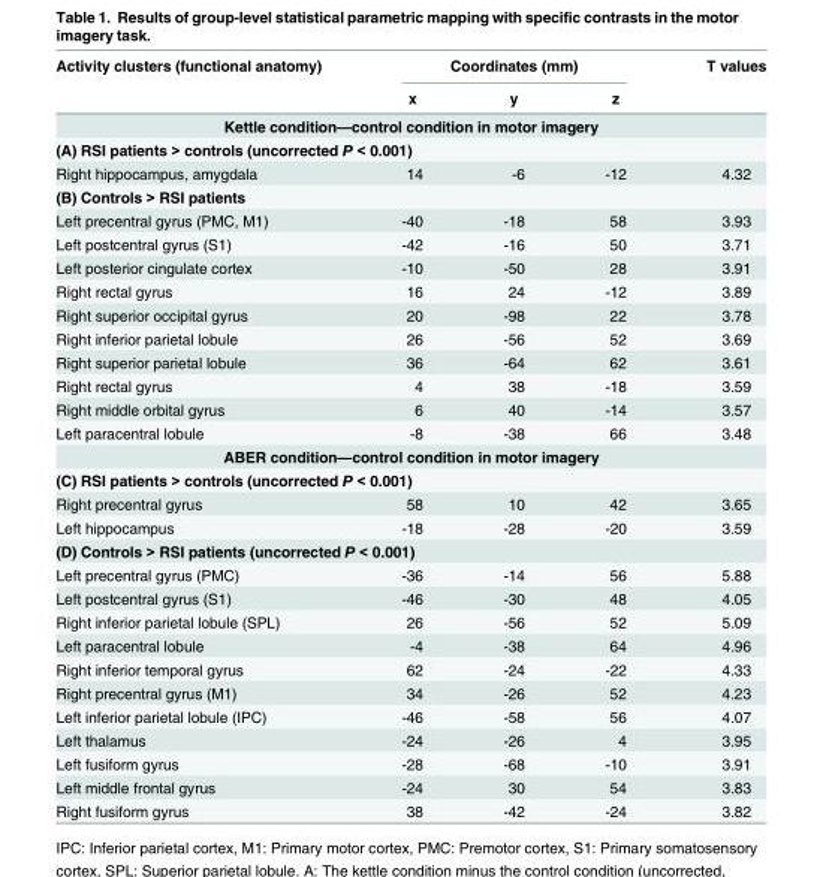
<table><thead><tr><td rowspan="2">Activity clusters (functional anatomy)</td><td colspan="3">Coordinates (mm)</td><td rowspan="2">T values</td></tr><tr><td>x</td><td>y</td><td>z</td></tr></thead><tbody><tr><td colspan="5">Kettle condition—control condition in motor imagery</td></tr><tr><td colspan="5">(A) RSI patients &gt; controls (uncorrected P &lt; 0.001)</td></tr><tr><td>Right hippocampus, amygdala</td><td>14</td><td>-6</td><td>-12</td><td>4.32</td></tr><tr><td colspan="5">(B) Controls &gt; RSI patients</td></tr><tr><td>Left precentral gyrus (PMC, M1)</td><td>-40</td><td>-18</td><td>58</td><td>3.93</td></tr><tr><td>Left postcentral gyrus (S1)</td><td>-42</td><td>-16</td><td>50</td><td>3.71</td></tr><tr><td>Left posterior cingulate cortex</td><td>-10</td><td>-50</td><td>28</td><td>3.91</td></tr><tr><td>Right rectal gyrus</td><td>16</td><td>24</td><td>-12</td><td>3.89</td></tr><tr><td>Right superior occipital gyrus</td><td>20</td><td>-98</td><td>22</td><td>3.78</td></tr><tr><td>Right inferior parietal lobule</td><td>26</td><td>-56</td><td>52</td><td>3.69</td></tr><tr><td>Right superior parietal lobule</td><td>36</td><td>-64</td><td>62</td><td>3.61</td></tr><tr><td>Right rectal gyrus</td><td>4</td><td>38</td><td>-18</td><td>3.59</td></tr><tr><td>Right middle orbital gyrus</td><td>6</td><td>40</td><td>-14</td><td>3.57</td></tr><tr><td>Left paracentral lobule</td><td>-8</td><td>-38</td><td>66</td><td>3.48</td></tr><tr><td colspan="5">ABER condition—control condition in motor imagery</td></tr><tr><td colspan="5">(C) RSI patients &gt; controls (uncorrected P &lt; 0.001)</td></tr><tr><td>Right precentral gyrus</td><td>58</td><td>10</td><td>42</td><td>3.65</td></tr><tr><td>Left hippocampus</td><td>-18</td><td>-28</td><td>-20</td><td>3.59</td></tr><tr><td colspan="5">(D) Controls &gt; RSI patients (uncorrected P &lt; 0.001)</td></tr><tr><td>Left precentral gyrus (PMC)</td><td>-36</td><td>-14</td><td>56</td><td>5.88</td></tr><tr><td>Left postcentral gyrus (S1)</td><td>-46</td><td>-30</td><td>48</td><td>4.05</td></tr><tr><td>Right inferior parietal lobule (SPL)</td><td>26</td><td>-56</td><td>52</td><td>5.09</td></tr><tr><td>Left paracentral lobule</td><td>-4</td><td>-38</td><td>64</td><td>4.96</td></tr><tr><td>Right inferior temporal gyrus</td><td>62</td><td>-24</td><td>-22</td><td>4.33</td></tr><tr><td>Right precentral gyrus (M1)</td><td>34</td><td>-26</td><td>52</td><td>4.23</td></tr><tr><td>Left inferior parietal lobule (IPC)</td><td>-46</td><td>-58</td><td>56</td><td>4.07</td></tr><tr><td>Left thalamus</td><td>-24</td><td>-26</td><td>4</td><td>3.95</td></tr><tr><td>Left fusiform gyrus</td><td>-28</td><td>-68</td><td>-10</td><td>3.91</td></tr><tr><td>Left middle frontal gyrus</td><td>-24</td><td>30</td><td>54</td><td>3.83</td></tr><tr><td>Right fusiform gyrus</td><td>38</td><td>-42</td><td>-24</td><td>3.82</td></tr></tbody></table>